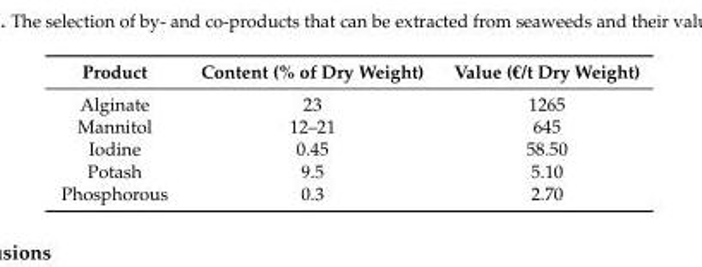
<table><thead><tr><td>Product</td><td>Content (% of Dry Weight)</td><td>Value (€/t Dry Weight)</td></tr></thead><tbody><tr><td>Alginate</td><td>23</td><td>1265</td></tr><tr><td>Mannitol</td><td>12–21</td><td>645</td></tr><tr><td>Iodine</td><td>0.45</td><td>58.50</td></tr><tr><td>Potash</td><td>9.5</td><td>5.10</td></tr><tr><td>Phosphorous</td><td>0.3</td><td>2.70</td></tr></tbody></table>